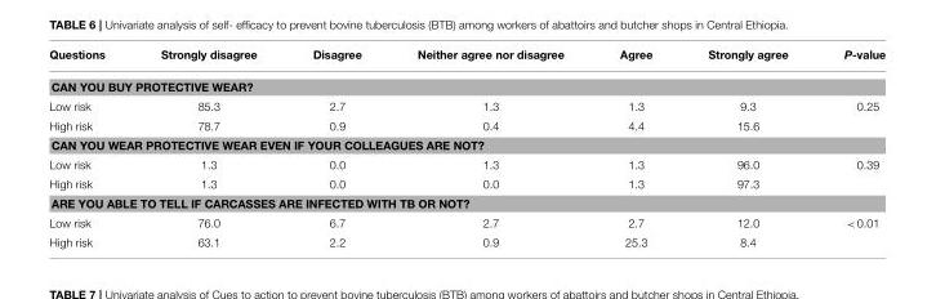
<table><thead><tr><td>Questions</td><td>Strongly disagree</td><td>Disagree</td><td>Neither agree nor disagree</td><td>Agree</td><td>Strongly agree</td><td>P-value</td></tr></thead><tbody><tr><td colspan="7">CAN YOU BUY PROTECTIVE WEAR?</td></tr><tr><td>Low risk</td><td>85.3</td><td>2.7</td><td>1.3</td><td>1.3</td><td>9.3</td><td>0.25</td></tr><tr><td>High risk</td><td>78.7</td><td>0.9</td><td>0.4</td><td>4.4</td><td>15.6</td><td></td></tr><tr><td colspan="7">CAN YOU WEAR PROTECTIVE WEAR EVEN IF YOUR COLLEAGUES ARE NOT?</td></tr><tr><td>Low risk</td><td>1.3</td><td>0.0</td><td>1.3</td><td>1.3</td><td>96.0</td><td>0.39</td></tr><tr><td>High risk</td><td>1.3</td><td>0.0</td><td>0.0</td><td>1.3</td><td>97.3</td><td></td></tr><tr><td colspan="7">ARE YOU ABLE TO TELL IF CARCASSES ARE INFECTED WITH TB OR NOT?</td></tr><tr><td>Low risk</td><td>76.0</td><td>6.7</td><td>2.7</td><td>2.7</td><td>12.0</td><td>&lt;0.01</td></tr><tr><td>High risk</td><td>63.1</td><td>2.2</td><td>0.9</td><td>25.3</td><td>8.4</td><td></td></tr></tbody></table>